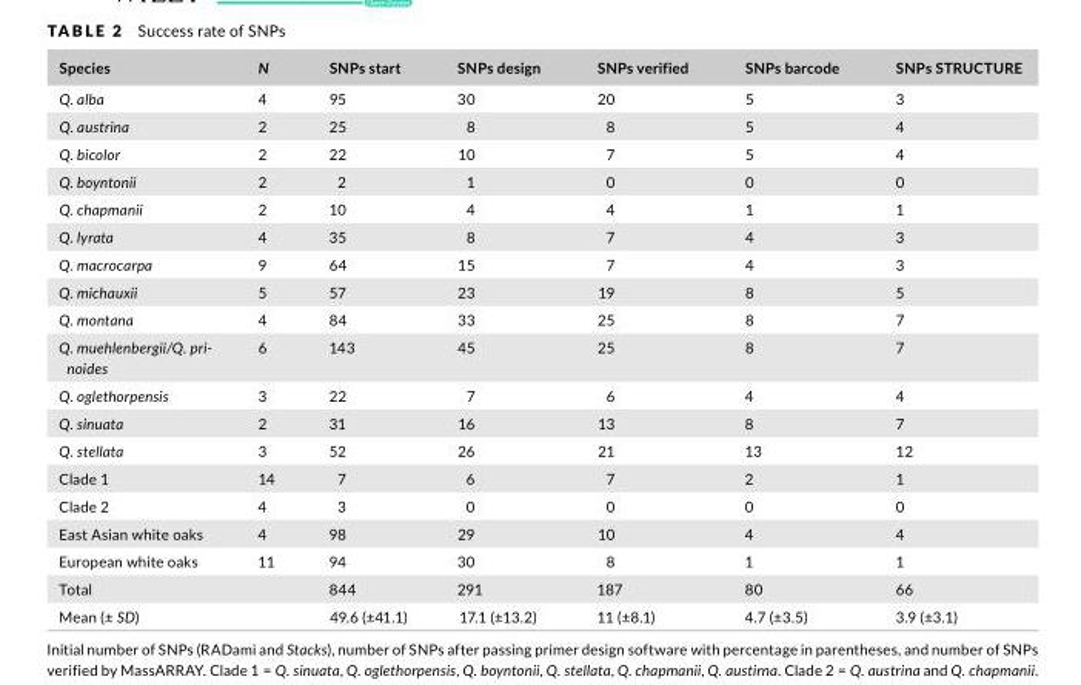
<table><thead><tr><td>Species</td><td>N</td><td>SNPs start</td><td>SNPs design</td><td>SNPs verified</td><td>SNPs barcode</td><td>SNPs STRUCTURE</td></tr></thead><tbody><tr><td>Q. alba</td><td>4</td><td>95</td><td>30</td><td>20</td><td>5</td><td>3</td></tr><tr><td>Q. austrina</td><td>2</td><td>25</td><td>8</td><td>8</td><td>5</td><td>4</td></tr><tr><td>Q. bicolor</td><td>2</td><td>22</td><td>10</td><td>7</td><td>5</td><td>4</td></tr><tr><td>Q. boyntonii</td><td>2</td><td>2</td><td>1</td><td>0</td><td>0</td><td>0</td></tr><tr><td>Q. chapmanii</td><td>2</td><td>10</td><td>4</td><td>4</td><td>1</td><td>1</td></tr><tr><td>Q. lyrata</td><td>4</td><td>35</td><td>8</td><td>7</td><td>4</td><td>3</td></tr><tr><td>Q. macrocarpa</td><td>9</td><td>64</td><td>15</td><td>7</td><td>4</td><td>3</td></tr><tr><td>Q. michauxii</td><td>5</td><td>57</td><td>23</td><td>19</td><td>8</td><td>5</td></tr><tr><td>Q. montana</td><td>4</td><td>84</td><td>33</td><td>25</td><td>8</td><td>7</td></tr><tr><td>Q. muehlenbergii/Q. pri- noides</td><td>6</td><td>143</td><td>45</td><td>25</td><td>8</td><td>7</td></tr><tr><td>Q. oglethorpensis</td><td>3</td><td>22</td><td>7</td><td>6</td><td>4</td><td>4</td></tr><tr><td>Q. sinuata</td><td>2</td><td>31</td><td>16</td><td>13</td><td>8</td><td>7</td></tr><tr><td>Q. stellata</td><td>3</td><td>52</td><td>26</td><td>21</td><td>13</td><td>12</td></tr><tr><td>Clade 1</td><td>14</td><td>7</td><td>6</td><td>7</td><td>2</td><td>1</td></tr><tr><td>Clade 2</td><td>4</td><td>3</td><td>0</td><td>0</td><td>0</td><td>0</td></tr><tr><td>East Asian white oaks</td><td>4</td><td>98</td><td>29</td><td>10</td><td>4</td><td>4</td></tr><tr><td>European white oaks</td><td>11</td><td>94</td><td>30</td><td>8</td><td>1</td><td>1</td></tr><tr><td>Total</td><td></td><td>844</td><td>291</td><td>187</td><td>80</td><td>66</td></tr><tr><td>Mean (± SD)</td><td></td><td>49.6 (±41.1)</td><td>17.1 (±13.2)</td><td>11 (±8.1)</td><td>4.7 (±3.5)</td><td>3.9 (±3.1)</td></tr></tbody></table>